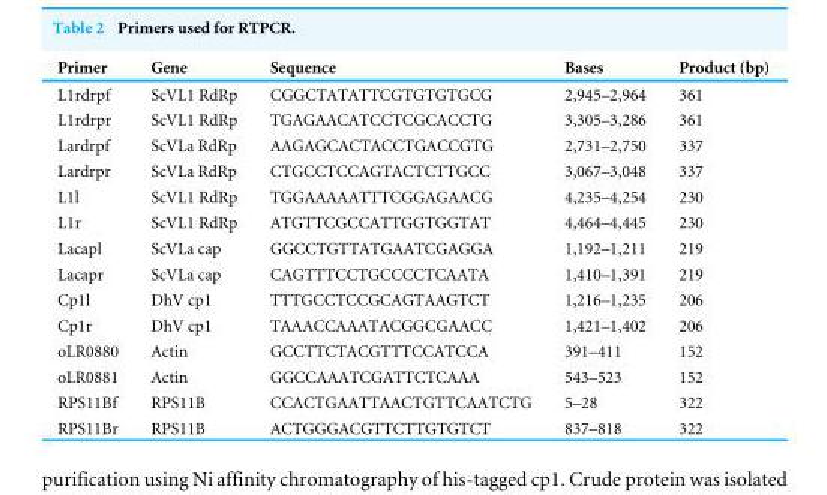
<table><thead><tr><td>Primer</td><td>Gene</td><td>Sequence</td><td>Bases</td><td>Product (bp)</td></tr></thead><tbody><tr><td>L1rdrpf</td><td>ScVL1 RdRp</td><td>CGGCTATATTCGTGTGTGCG</td><td>2,945–2,964</td><td>361</td></tr><tr><td>L1rdrpr</td><td>ScVL1 RdRp</td><td>TGAGAACATCCTCGCACCTG</td><td>3,305–3,286</td><td>361</td></tr><tr><td>Lardrpf</td><td>ScVLa RdRp</td><td>AAGAGCACTACCTGACCGTG</td><td>2,731–2,750</td><td>337</td></tr><tr><td>Lardrpr</td><td>ScVLa RdRp</td><td>CTGCCTCCAGTACTCTTGCC</td><td>3,067–3,048</td><td>337</td></tr><tr><td>L1l</td><td>ScVL1 RdRp</td><td>TGGAAAAATTTCGGAGAACG</td><td>4,235–4,254</td><td>230</td></tr><tr><td>L1r</td><td>ScVL1 RdRp</td><td>ATGTTCGCCATTGGTGGTAT</td><td>4,464–4,445</td><td>230</td></tr><tr><td>Lacapl</td><td>ScVLa cap</td><td>GGCCTGTTATGAATCGAGGA</td><td>1,192–1,211</td><td>219</td></tr><tr><td>Lacapr</td><td>ScVLa cap</td><td>CAGTTTCCTGCCCCTCAATA</td><td>1,410–1,391</td><td>219</td></tr><tr><td>Cp1l</td><td>DhV cp1</td><td>TTTGCCTCCGCAGTAAGTCT</td><td>1,216–1,235</td><td>206</td></tr><tr><td>Cp1r</td><td>DhV cp1</td><td>TAAACCAAATACGGCGAACC</td><td>1,421–1,402</td><td>206</td></tr><tr><td>oLR0880</td><td>Actin</td><td>GCCTTCTACGTTTCCATCCA</td><td>391–411</td><td>152</td></tr><tr><td>oLR0881</td><td>Actin</td><td>GGCCAAATCGATTCTCAAA</td><td>543–523</td><td>152</td></tr><tr><td>RPS11Bf</td><td>RPS11B</td><td>CCACTGAATTAACTGTTCAATCTG</td><td>5–28</td><td>322</td></tr><tr><td>RPS11Br</td><td>RPS11B</td><td>ACTGGGACGTTCTTGTGTCT</td><td>837–818</td><td>322</td></tr></tbody></table>